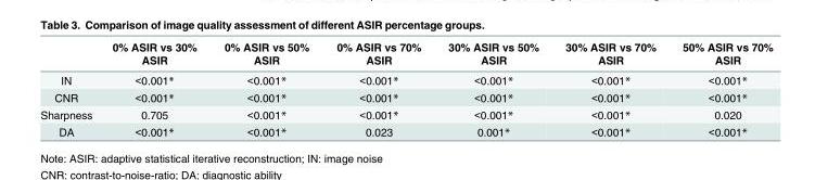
<table><thead><tr><td></td><td>0% ASIR vs 30% ASIR</td><td>0% ASIR vs 50% ASIR</td><td>0% ASIR vs 70% ASIR</td><td>30% ASIR vs 50% ASIR</td><td>30% ASIR vs 70% ASIR</td><td>50% ASIR vs 70% ASIR</td></tr></thead><tbody><tr><td>IN</td><td>&lt;0.001*</td><td>&lt;0.001*</td><td>&lt;0.001*</td><td>&lt;0.001*</td><td>&lt;0.001*</td><td>&lt;0.001*</td></tr><tr><td>CNR</td><td>&lt;0.001*</td><td>&lt;0.001*</td><td>&lt;0.001*</td><td>&lt;0.001*</td><td>&lt;0.001*</td><td>&lt;0.001*</td></tr><tr><td>Sharpness</td><td>0.705</td><td>&lt;0.001*</td><td>&lt;0.001*</td><td>&lt;0.001*</td><td>&lt;0.001*</td><td>0.020</td></tr><tr><td>DA</td><td>&lt;0.001*</td><td>&lt;0.001*</td><td>0.023</td><td>0.001*</td><td>&lt;0.001*</td><td>&lt;0.001*</td></tr></tbody></table>